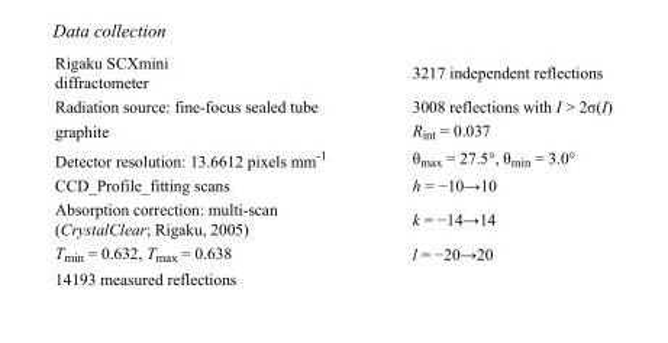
<table><tbody><tr><td>Rigaku SCXmini diffractometer</td><td>3217 independent reflections</td></tr><tr><td>Radiation source: fine-focus sealed tube</td><td>3008 reflections with I &gt; 2σ(I)</td></tr><tr><td>graphite</td><td>R<sub>int</sub> = 0.037</td></tr><tr><td>Detector resolution: 13.6612 pixels mm<sup>-1</sup></td><td>θ<sub>max</sub> = 27.5°, θ<sub>min</sub> = 3.0°</td></tr><tr><td>CCD_Profile_fitting scans</td><td>h = −10→10</td></tr><tr><td>Absorption correction: multi-scan (CrystalClear; Rigaku, 2005)</td><td>k = −14→14</td></tr><tr><td>T<sub>min</sub> = 0.632, T<sub>max</sub> = 0.638</td><td>l = −20→20</td></tr><tr><td>14193 measured reflections</td><td></td></tr></tbody></table>